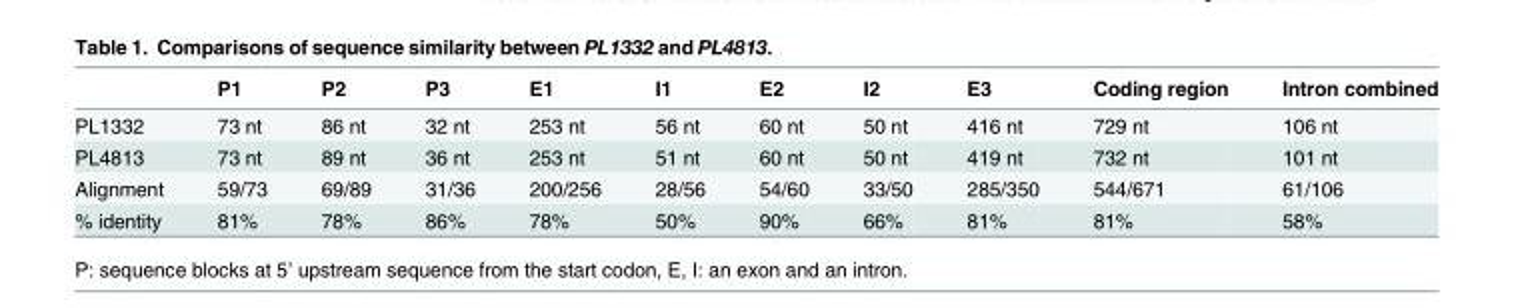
<table><thead><tr><td></td><td>P1</td><td>P2</td><td>P3</td><td>E1</td><td>I1</td><td>E2</td><td>I2</td><td>E3</td><td>Coding region</td><td>Intron combined</td></tr></thead><tbody><tr><td>PL1332</td><td>73 nt</td><td>86 nt</td><td>32 nt</td><td>253 nt</td><td>56 nt</td><td>60 nt</td><td>50 nt</td><td>416 nt</td><td>729 nt</td><td>106 nt</td></tr><tr><td>PL4813</td><td>73 nt</td><td>89 nt</td><td>36 nt</td><td>253 nt</td><td>51 nt</td><td>60 nt</td><td>50 nt</td><td>419 nt</td><td>732 nt</td><td>101 nt</td></tr><tr><td>Alignment</td><td>59/73</td><td>69/89</td><td>31/36</td><td>200/256</td><td>28/56</td><td>54/60</td><td>33/50</td><td>285/350</td><td>544/671</td><td>61/106</td></tr><tr><td>% identity</td><td>81%</td><td>78%</td><td>86%</td><td>78%</td><td>50%</td><td>90%</td><td>66%</td><td>81%</td><td>81%</td><td>58%</td></tr></tbody></table>